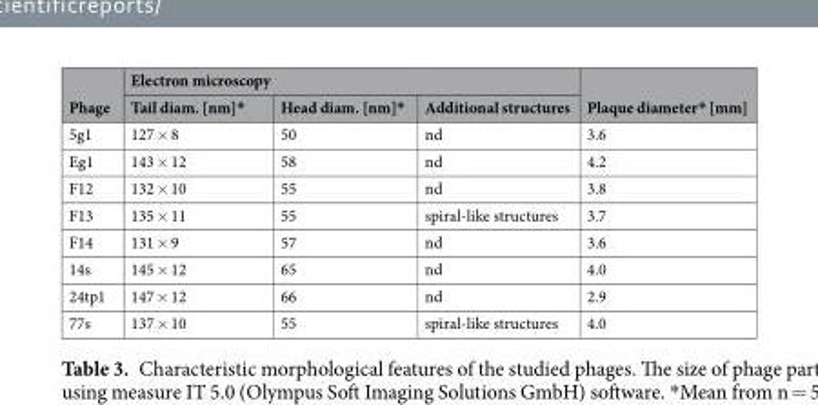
<table><thead><tr><td rowspan="2">Phage</td><td colspan="3">Electron microscopy</td><td rowspan="2">Plaque diameter* [mm]</td></tr><tr><td>Tail diam. [nm]*</td><td>Head diam. [nm]*</td><td>Additional structures</td></tr></thead><tbody><tr><td>5g1</td><td>127 × 8</td><td>50</td><td>nd</td><td>3.6</td></tr><tr><td>Eg1</td><td>143 × 12</td><td>58</td><td>nd</td><td>4.2</td></tr><tr><td>F12</td><td>132 × 10</td><td>55</td><td>nd</td><td>3.8</td></tr><tr><td>F13</td><td>135 × 11</td><td>55</td><td>spiral-like structures</td><td>3.7</td></tr><tr><td>F14</td><td>131 × 9</td><td>57</td><td>nd</td><td>3.6</td></tr><tr><td>14s</td><td>145 × 12</td><td>65</td><td>nd</td><td>4.0</td></tr><tr><td>24tp1</td><td>147 × 12</td><td>66</td><td>nd</td><td>2.9</td></tr><tr><td>77s</td><td>137 × 10</td><td>55</td><td>spiral-like structures</td><td>4.0</td></tr></tbody></table>